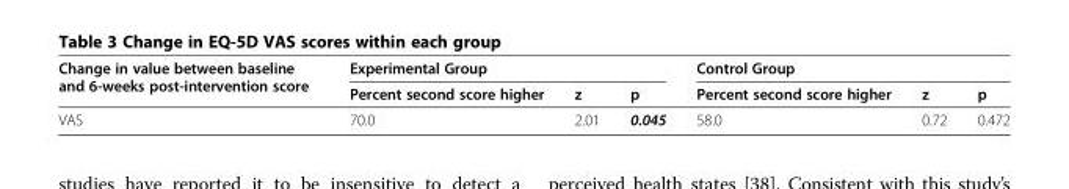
<table><thead><tr><td rowspan="2">Change in value between baseline and 6-weeks post-intervention score</td><td colspan="3">Experimental Group</td><td colspan="3">Control Group</td></tr><tr><td>Percent second score higher</td><td>z</td><td>p</td><td>Percent second score higher</td><td>z</td><td>p</td></tr></thead><tbody><tr><td>VAS</td><td>70.0</td><td>2.01</td><td>0.045</td><td>58.0</td><td>0.72</td><td>0.472</td></tr></tbody></table>